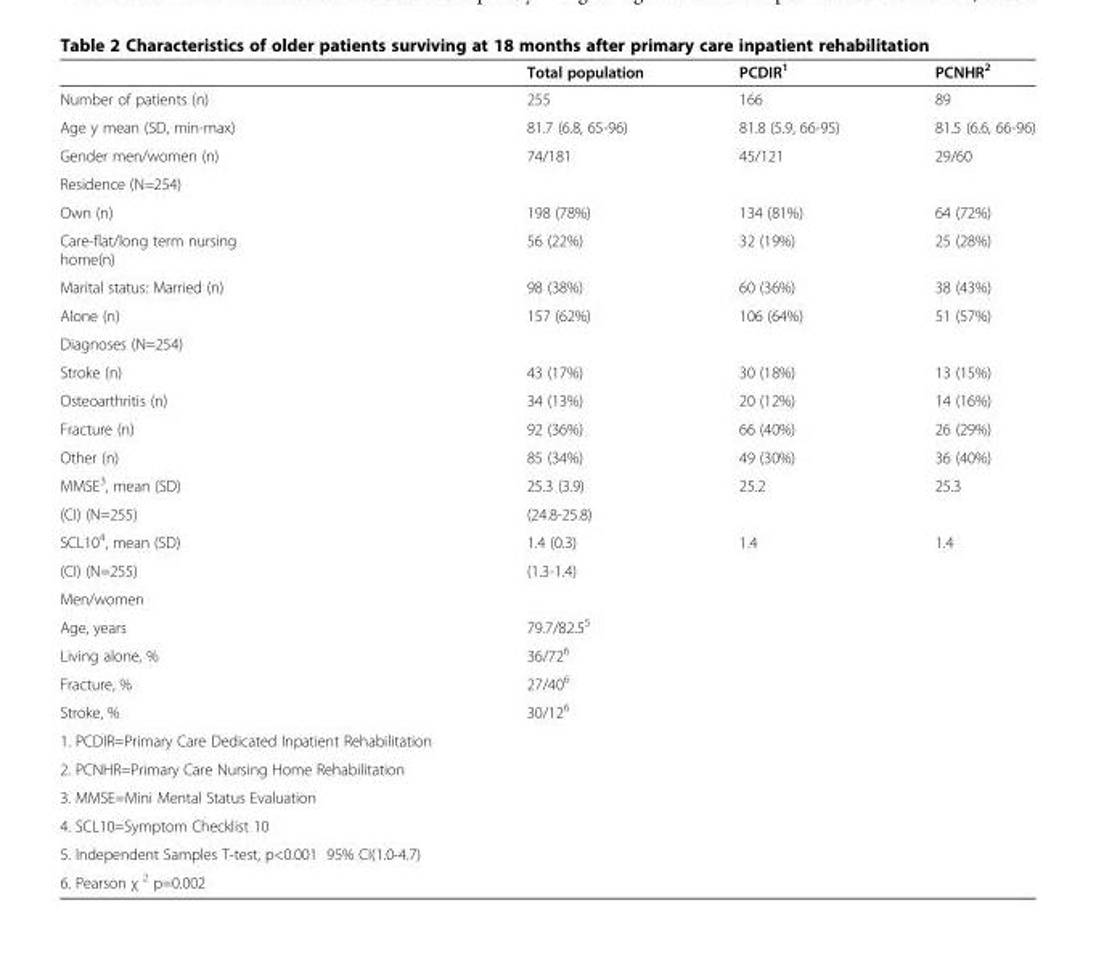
<table><thead><tr><td></td><td>Total population</td><td>PCDIR<sup>1</sup></td><td>PCNHR<sup>2</sup></td></tr></thead><tbody><tr><td>Number of patients (n)</td><td>255</td><td>166</td><td>89</td></tr><tr><td>Age y mean (SD, min-max)</td><td>81.7 (6.8, 65-96)</td><td>81.8 (5.9, 66-95)</td><td>81.5 (6.6, 66-96)</td></tr><tr><td>Gender men/women (n)</td><td>74/181</td><td>45/121</td><td>29/60</td></tr><tr><td colspan="4">Residence (N=254)</td></tr><tr><td>Own (n)</td><td>198 (78%)</td><td>134 (81%)</td><td>64 (72%)</td></tr><tr><td>Care-flat/long term nursing home(n)</td><td>56 (22%)</td><td>32 (19%)</td><td>25 (28%)</td></tr><tr><td>Marital status: Married (n)</td><td>98 (38%)</td><td>60 (36%)</td><td>38 (43%)</td></tr><tr><td>Alone (n)</td><td>157 (62%)</td><td>106 (64%)</td><td>51 (57%)</td></tr><tr><td colspan="4">Diagnoses (N=254)</td></tr><tr><td>Stroke (n)</td><td>43 (17%)</td><td>30 (18%)</td><td>13 (15%)</td></tr><tr><td>Osteoarthritis (n)</td><td>34 (13%)</td><td>20 (12%)</td><td>14 (16%)</td></tr><tr><td>Fracture (n)</td><td>92 (36%)</td><td>66 (40%)</td><td>26 (29%)</td></tr><tr><td>Other (n)</td><td>85 (34%)</td><td>49 (30%)</td><td>36 (40%)</td></tr><tr><td>MMSE<sup>3</sup>, mean (SD)</td><td>25.3 (3.9)</td><td>25.2</td><td>25.3</td></tr><tr><td>(CI) (N=255)</td><td>(24.8-25.8)</td><td></td><td></td></tr><tr><td>SCL10<sup>4</sup>, mean (SD)</td><td>1.4 (0.3)</td><td>1.4</td><td>1.4</td></tr><tr><td>(CI) (N=255)</td><td>(1.3-1.4)</td><td></td><td></td></tr><tr><td colspan="4">Men/women</td></tr><tr><td>Age, years</td><td>79.7/82.5<sup>5</sup></td><td></td><td></td></tr><tr><td>Living alone, %</td><td>36/72<sup>6</sup></td><td></td><td></td></tr><tr><td>Fracture, %</td><td>27/40<sup>6</sup></td><td></td><td></td></tr><tr><td>Stroke, %</td><td>30/12<sup>6</sup></td><td></td><td></td></tr><tr><td colspan="4">1. PCDIR=Primary Care Dedicated Inpatient Rehabilitation</td></tr><tr><td colspan="4">2. PCNHR=Primary Care Nursing Home Rehabilitation</td></tr><tr><td colspan="4">3. MMSE=Mini Mental Status Evaluation</td></tr><tr><td colspan="4">4. SCL10=Symptom Checklist 10</td></tr><tr><td colspan="4">5. Independent Samples T-test, p&lt;0.001 95% CI(1.0-4.7)</td></tr><tr><td>6. Pearson χ <sup>2</sup> p=0.002</td><td></td><td></td><td></td></tr></tbody></table>